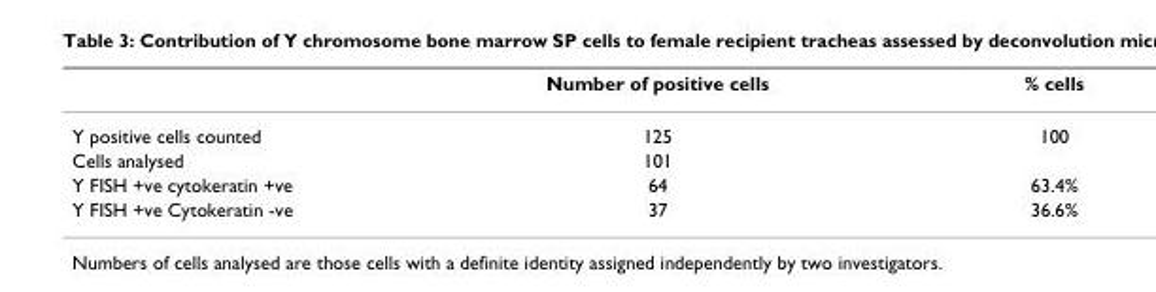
<table><thead><tr><td></td><td>Number of positive cells</td><td>% cells</td></tr></thead><tbody><tr><td>Y positive cells counted</td><td>125</td><td>100</td></tr><tr><td>Cells analysed</td><td>101</td><td></td></tr><tr><td>Y FISH +ve cytokeratin +ve</td><td>64</td><td>63.4%</td></tr><tr><td>Y FISH +ve Cytokeratin -ve</td><td>37</td><td>36.6%</td></tr></tbody></table>